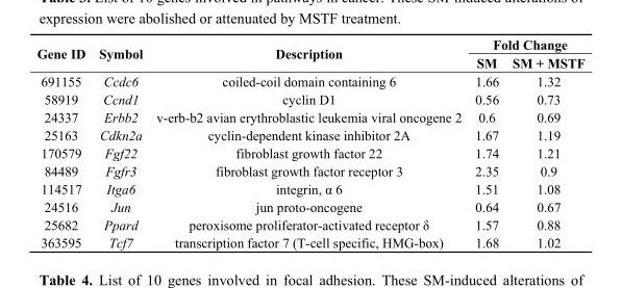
<table><thead><tr><td rowspan="2">Gene ID</td><td rowspan="2">Symbol</td><td rowspan="2">Description</td><td colspan="2">Fold Change</td></tr><tr><td>SM</td><td>SM + MSTF</td></tr></thead><tbody><tr><td>691155</td><td>Ccdc6</td><td>coiled-coil domain containing 6</td><td>1.66</td><td>1.32</td></tr><tr><td>58919</td><td>Ccnd1</td><td>cyclin D1</td><td>0.56</td><td>0.73</td></tr><tr><td>24337</td><td>Erbb2</td><td>v-erb-b2 avian erythroblastic leukemia viral oncogene 2</td><td>0.6</td><td>0.69</td></tr><tr><td>25163</td><td>Cdkn2a</td><td>cyclin-dependent kinase inhibitor 2A</td><td>1.67</td><td>1.19</td></tr><tr><td>170579</td><td>Fgf22</td><td>fibroblast growth factor 22</td><td>1.74</td><td>1.21</td></tr><tr><td>84489</td><td>Fgfr3</td><td>fibroblast growth factor receptor 3</td><td>2.35</td><td>0.9</td></tr><tr><td>114517</td><td>Itga6</td><td>integrin, α 6</td><td>1.51</td><td>1.08</td></tr><tr><td>24516</td><td>Jun</td><td>jun proto-oncogene</td><td>0.64</td><td>0.67</td></tr><tr><td>25682</td><td>Ppard</td><td>peroxisome proliferator-activated receptor δ</td><td>1.57</td><td>0.88</td></tr><tr><td>363595</td><td>Tcf7</td><td>transcription factor 7 (T-cell specific, HMG-box)</td><td>1.68</td><td>1.02</td></tr></tbody></table>